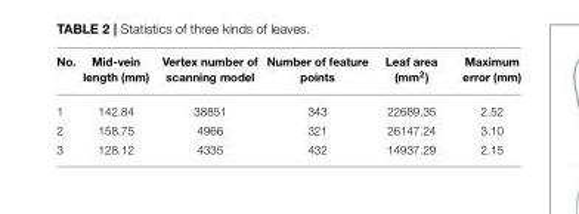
<table><thead><tr><td>No.</td><td>Mid-vein length (mm)</td><td>Vertex number of scanning model</td><td>Number of feature points</td><td>Leaf area (mm<sup>2</sup>)</td><td>Maximum error (mm)</td></tr></thead><tbody><tr><td>1</td><td>142.84</td><td>38851</td><td>343</td><td>22689.35</td><td>2.52</td></tr><tr><td>2</td><td>158.75</td><td>4966</td><td>321</td><td>26147.24</td><td>3.10</td></tr><tr><td>3</td><td>128.12</td><td>4335</td><td>432</td><td>14937.29</td><td>2.15</td></tr></tbody></table>